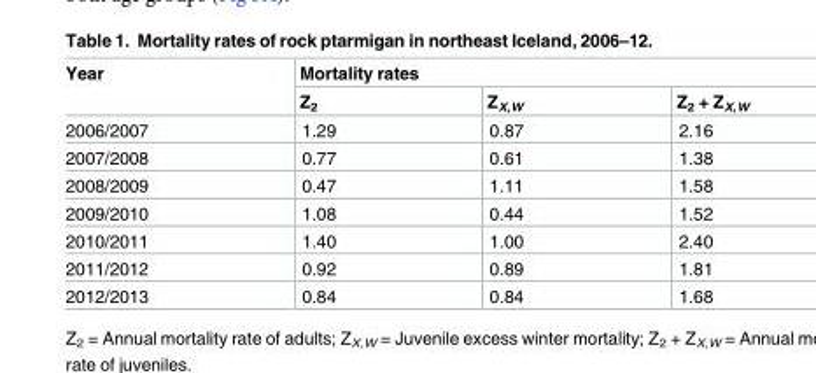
<table><thead><tr><td rowspan="2">Year</td><td colspan="3">Mortality rates</td></tr><tr><td>Z<sub>2</sub></td><td>Z<sub>X,W</sub></td><td>Z<sub>2</sub> + Z<sub>X,W</sub></td></tr></thead><tbody><tr><td>2006/2007</td><td>1.29</td><td>0.87</td><td>2.16</td></tr><tr><td>2007/2008</td><td>0.77</td><td>0.61</td><td>1.38</td></tr><tr><td>2008/2009</td><td>0.47</td><td>1.11</td><td>1.58</td></tr><tr><td>2009/2010</td><td>1.08</td><td>0.44</td><td>1.52</td></tr><tr><td>2010/2011</td><td>1.40</td><td>1.00</td><td>2.40</td></tr><tr><td>2011/2012</td><td>0.92</td><td>0.89</td><td>1.81</td></tr><tr><td>2012/2013</td><td>0.84</td><td>0.84</td><td>1.68</td></tr></tbody></table>